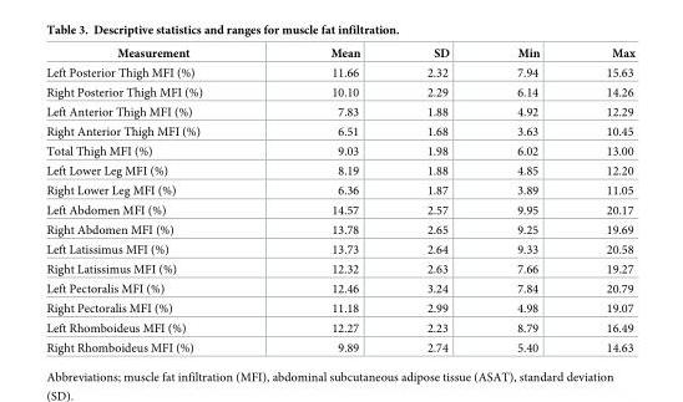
<table><thead><tr><td>Measurement</td><td>Mean</td><td>SD</td><td>Min</td><td>Max</td></tr></thead><tbody><tr><td>Left Posterior Thigh MFI (%)</td><td>11.66</td><td>2.32</td><td>7.94</td><td>15.63</td></tr><tr><td>Right Posterior Thigh MFI (%)</td><td>10.10</td><td>2.29</td><td>6.14</td><td>14.26</td></tr><tr><td>Left Anterior Thigh MFI (%)</td><td>7.83</td><td>1.88</td><td>4.92</td><td>12.29</td></tr><tr><td>Right Anterior Thigh MFI (%)</td><td>6.51</td><td>1.68</td><td>3.63</td><td>10.45</td></tr><tr><td>Total Thigh MFI (%)</td><td>9.03</td><td>1.98</td><td>6.02</td><td>13.00</td></tr><tr><td>Left Lower Leg MFI (%)</td><td>8.19</td><td>1.88</td><td>4.85</td><td>12.20</td></tr><tr><td>Right Lower Leg MFI (%)</td><td>6.36</td><td>1.87</td><td>3.89</td><td>11.05</td></tr><tr><td>Left Abdomen MFI (%)</td><td>14.57</td><td>2.57</td><td>9.95</td><td>20.17</td></tr><tr><td>Right Abdomen MFI (%)</td><td>13.78</td><td>2.65</td><td>9.25</td><td>19.69</td></tr><tr><td>Left Latissimus MFI (%)</td><td>13.73</td><td>2.64</td><td>9.33</td><td>20.58</td></tr><tr><td>Right Latissimus MFI (%)</td><td>12.32</td><td>2.63</td><td>7.66</td><td>19.27</td></tr><tr><td>Left Pectoralis MFI (%)</td><td>12.46</td><td>3.24</td><td>7.84</td><td>20.79</td></tr><tr><td>Right Pectoralis MFI (%)</td><td>11.18</td><td>2.99</td><td>4.98</td><td>19.07</td></tr><tr><td>Left Rhomboideus MFI (%)</td><td>12.27</td><td>2.23</td><td>8.79</td><td>16.49</td></tr><tr><td>Right Rhomboideus MFI (%)</td><td>9.89</td><td>2.74</td><td>5.40</td><td>14.63</td></tr></tbody></table>